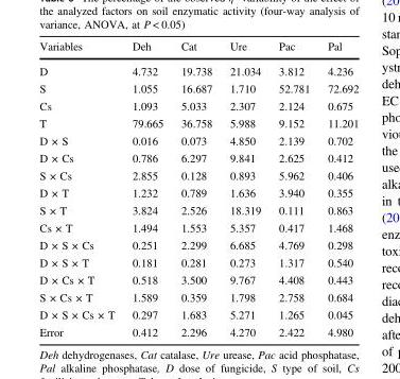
<table><thead><tr><td>Variables</td><td>Deh</td><td>Cat</td><td>Ure</td><td>Pac</td><td>Pal</td></tr></thead><tbody><tr><td>D</td><td>4.732</td><td>19.738</td><td>21.034</td><td>3.812</td><td>4.236</td></tr><tr><td>S</td><td>1.055</td><td>16.687</td><td>1.710</td><td>52.781</td><td>72.692</td></tr><tr><td>Cs</td><td>1.093</td><td>5.033</td><td>2.307</td><td>2.124</td><td>0.675</td></tr><tr><td>T</td><td>79.665</td><td>36.758</td><td>5.988</td><td>9.152</td><td>11.201</td></tr><tr><td>D × S</td><td>0.016</td><td>0.073</td><td>4.850</td><td>2.139</td><td>0.702</td></tr><tr><td>D × Cs</td><td>0.786</td><td>6.297</td><td>9.841</td><td>2.625</td><td>0.412</td></tr><tr><td>S × Cs</td><td>2.855</td><td>0.128</td><td>0.893</td><td>5.962</td><td>0.406</td></tr><tr><td>D × T</td><td>1.232</td><td>0.789</td><td>1.636</td><td>3.940</td><td>0.355</td></tr><tr><td>S × T</td><td>3.824</td><td>2.526</td><td>18.319</td><td>0.111</td><td>0.863</td></tr><tr><td>Cs × T</td><td>1.494</td><td>1.553</td><td>5.357</td><td>0.417</td><td>1.468</td></tr><tr><td>D × S × Cs</td><td>0.251</td><td>2.299</td><td>6.685</td><td>4.769</td><td>0.298</td></tr><tr><td>D × S × T</td><td>0.181</td><td>0.281</td><td>0.273</td><td>1.317</td><td>0.540</td></tr><tr><td>D × Cs × T</td><td>0.518</td><td>3.500</td><td>9.767</td><td>4.408</td><td>0.443</td></tr><tr><td>S × Cs × T</td><td>1.589</td><td>0.359</td><td>1.798</td><td>2.758</td><td>0.684</td></tr><tr><td>D × S × Cs × T</td><td>0.297</td><td>1.683</td><td>5.271</td><td>1.265</td><td>0.045</td></tr><tr><td>Error</td><td>0.412</td><td>2.296</td><td>4.270</td><td>2.422</td><td>4.980</td></tr></tbody></table>